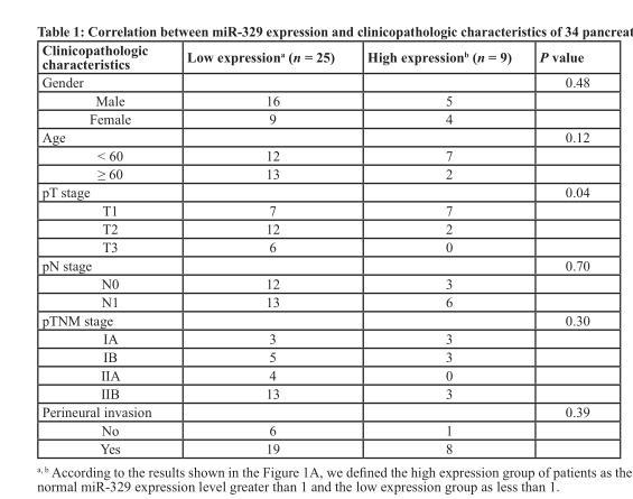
<table><thead><tr><td>Clinicopathologic characteristics</td><td>Low expression<sup>a</sup> (n = 25)</td><td>High expression<sup>b</sup> (n = 9)</td><td>P value</td></tr></thead><tbody><tr><td>Gender</td><td></td><td></td><td>0.48</td></tr><tr><td>Male</td><td>16</td><td>5</td><td></td></tr><tr><td>Female</td><td>9</td><td>4</td><td></td></tr><tr><td>Age</td><td></td><td></td><td>0.12</td></tr><tr><td>&lt; 60</td><td>12</td><td>7</td><td></td></tr><tr><td>≥ 60</td><td>13</td><td>2</td><td></td></tr><tr><td>pT stage</td><td></td><td></td><td>0.04</td></tr><tr><td>T1</td><td>7</td><td>7</td><td></td></tr><tr><td>T2</td><td>12</td><td>2</td><td></td></tr><tr><td>T3</td><td>6</td><td>0</td><td></td></tr><tr><td>pN stage</td><td></td><td></td><td>0.70</td></tr><tr><td>N0</td><td>12</td><td>3</td><td></td></tr><tr><td>N1</td><td>13</td><td>6</td><td></td></tr><tr><td>pTNM stage</td><td></td><td></td><td>0.30</td></tr><tr><td>IA</td><td>3</td><td>3</td><td></td></tr><tr><td>IB</td><td>5</td><td>3</td><td></td></tr><tr><td>IIA</td><td>4</td><td>0</td><td></td></tr><tr><td>IIB</td><td>13</td><td>3</td><td></td></tr><tr><td>Perineural invasion</td><td></td><td></td><td>0.39</td></tr><tr><td>No</td><td>6</td><td>1</td><td></td></tr><tr><td>Yes</td><td>19</td><td>8</td><td></td></tr></tbody></table>